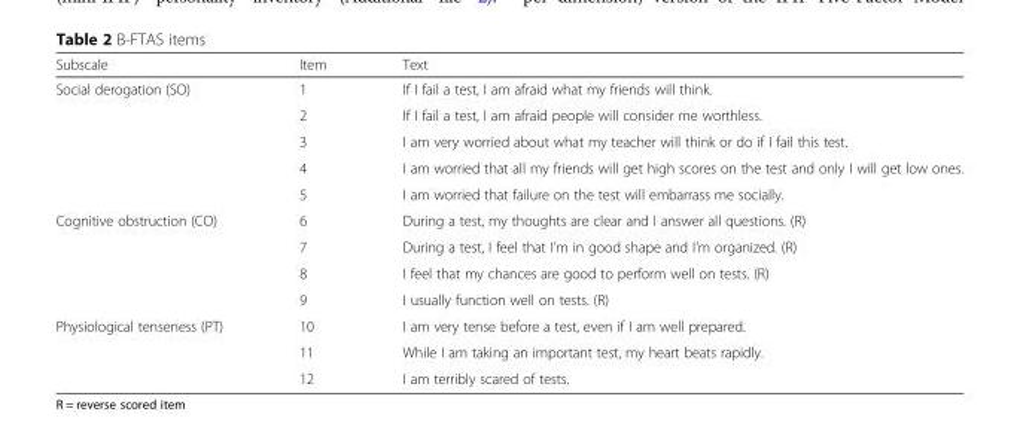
<table><thead><tr><td>Subscale</td><td>Item</td><td>Text</td></tr></thead><tbody><tr><td rowspan="5">Social derogation (SO)</td><td>1</td><td>If I fail a test, I am afraid what my friends will think.</td></tr><tr><td>2</td><td>If I fail a test, I am afraid people will consider me worthless.</td></tr><tr><td>3</td><td>I am very worried about what my teacher will think or do if I fail this test.</td></tr><tr><td>4</td><td>I am worried that all my friends will get high scores on the test and only I will get low ones.</td></tr><tr><td>5</td><td>I am worried that failure on the test will embarrass me socially.</td></tr><tr><td rowspan="4">Cognitive obstruction (CO)</td><td>6</td><td>During a test, my thoughts are clear and I answer all questions. (R)</td></tr><tr><td>7</td><td>During a test, I feel that I’m in good shape and I’m organized. (R)</td></tr><tr><td>8</td><td>I feel that my chances are good to perform well on tests. (R)</td></tr><tr><td>9</td><td>I usually function well on tests. (R)</td></tr><tr><td rowspan="3">Physiological tenseness (PT)</td><td>10</td><td>I am very tense before a test, even if I am well prepared.</td></tr><tr><td>11</td><td>While I am taking an important test, my heart beats rapidly.</td></tr><tr><td>12</td><td>I am terribly scared of tests.</td></tr></tbody></table>